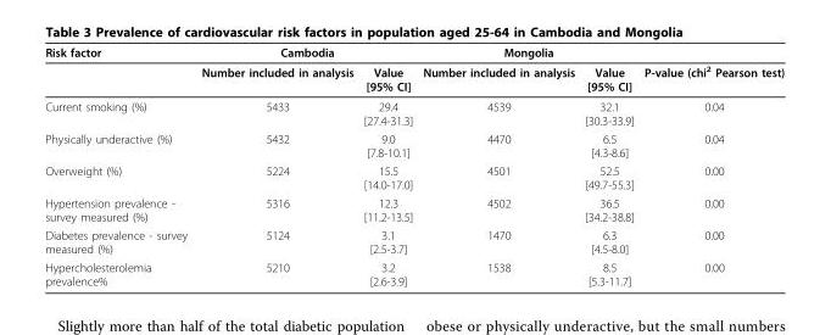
<table><thead><tr><td rowspan="2">Risk factor</td><td colspan="2">Cambodia</td><td colspan="2">Mongolia</td><td rowspan="2">P-value (chi<sup>2</sup> Pearson test)</td></tr><tr><td>Number included in analysis</td><td>Value [95% CI]</td><td>Number included in analysis</td><td>Value [95% CI]</td></tr></thead><tbody><tr><td>Current smoking (%)</td><td>5433</td><td>29.4 [27.4-31.3]</td><td>4539</td><td>32.1 [30.3-33.9]</td><td>0.04</td></tr><tr><td>Physically underactive (%)</td><td>5432</td><td>9.0 [7.8-10.1]</td><td>4470</td><td>6.5 [4.3-8.6]</td><td>0.04</td></tr><tr><td>Overweight (%)</td><td>5224</td><td>15.5 [14.0-17.0]</td><td>4501</td><td>52.5 [49.7-55.3]</td><td>0.00</td></tr><tr><td>Hypertension prevalence - survey measured (%)</td><td>5316</td><td>12.3 [11.2-13.5]</td><td>4502</td><td>36.5 [34.2-38.8]</td><td>0.00</td></tr><tr><td>Diabetes prevalence - survey measured (%)</td><td>5124</td><td>3.1 [2.5-3.7]</td><td>1470</td><td>6.3 [4.5-8.0]</td><td>0.00</td></tr><tr><td>Hypercholesterolemia prevalence%</td><td>5210</td><td>3.2 [2.6-3.9]</td><td>1538</td><td>8.5 [5.3-11.7]</td><td>0.00</td></tr></tbody></table>